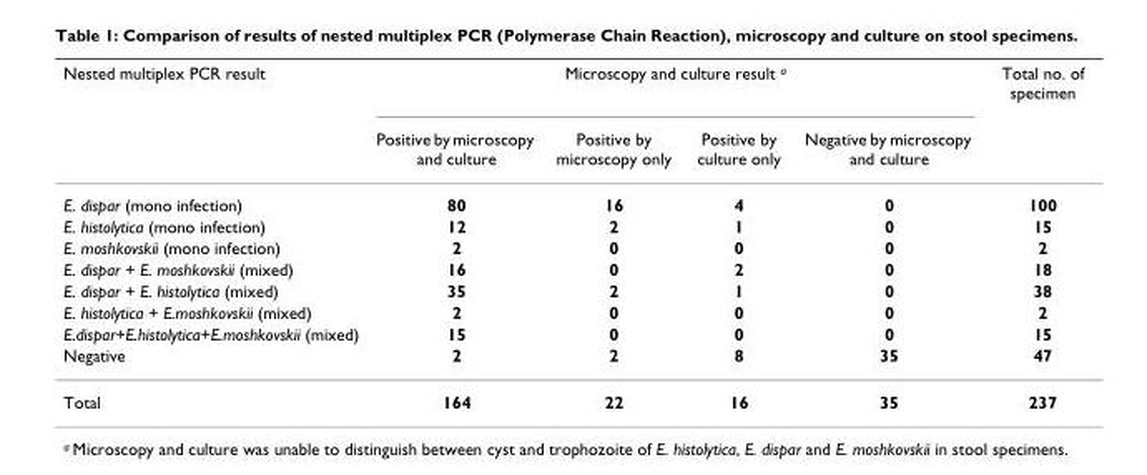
<table><thead><tr><td rowspan="2">Nested multiplex PCR result</td><td colspan="4">Microscopy and culture result a</td><td rowspan="2">Total no. of specimen</td></tr><tr><td>Positive by microscopy and culture</td><td>Positive by microscopy only</td><td>Positive by culture only</td><td>Negative by microscopy and culture</td></tr></thead><tbody><tr><td>E. dispar (mono infection)</td><td>80</td><td>16</td><td>4</td><td>0</td><td>100</td></tr><tr><td>E. histolytica (mono infection)</td><td>12</td><td>2</td><td>1</td><td>0</td><td>15</td></tr><tr><td>E. moshkovskii (mono infection)</td><td>2</td><td>0</td><td>0</td><td>0</td><td>2</td></tr><tr><td>E. dispar + E. moshkovskii (mixed)</td><td>16</td><td>0</td><td>2</td><td>0</td><td>18</td></tr><tr><td>E. dispar + E. histolytica (mixed)</td><td>35</td><td>2</td><td>1</td><td>0</td><td>38</td></tr><tr><td>E. histolytica + E.moshkovskii (mixed)</td><td>2</td><td>0</td><td>0</td><td>0</td><td>2</td></tr><tr><td>E.dispar+E.histolytica+E.moshkovskii (mixed)</td><td>15</td><td>0</td><td>0</td><td>0</td><td>15</td></tr><tr><td>Negative</td><td>2</td><td>2</td><td>8</td><td>35</td><td>47</td></tr><tr><td>Total</td><td>164</td><td>22</td><td>16</td><td>35</td><td>237</td></tr></tbody></table>